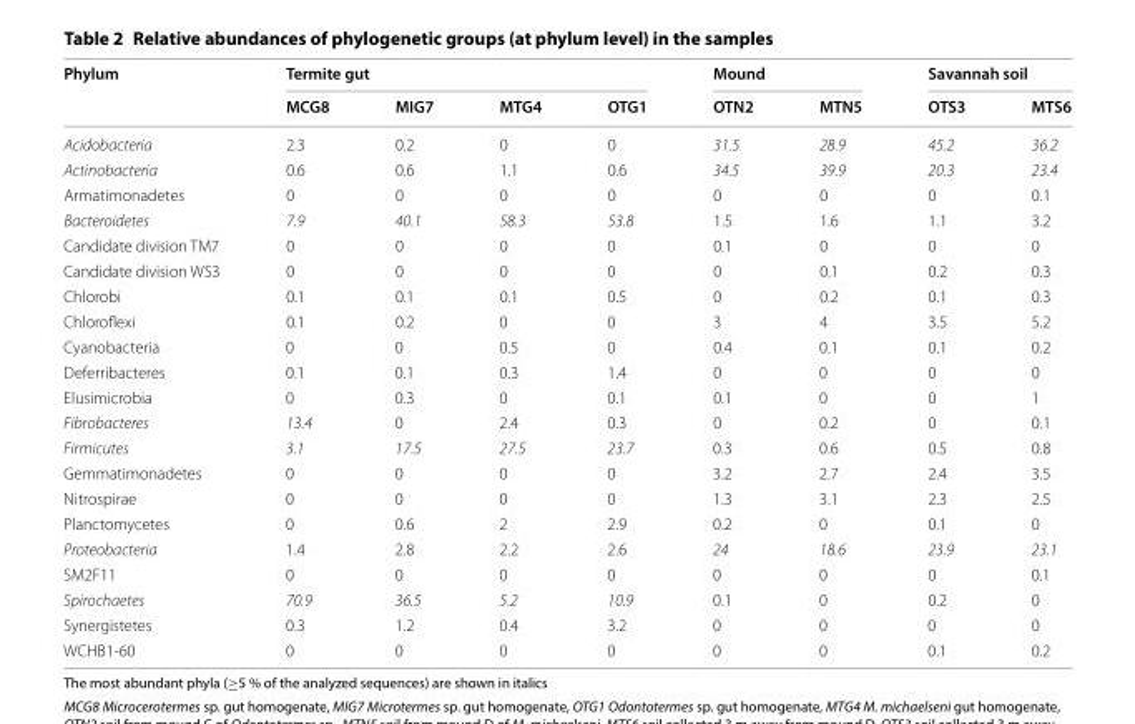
<table><thead><tr><td rowspan="2">Phylum</td><td colspan="4">Termite gut</td><td colspan="2">Mound</td><td colspan="2">Savannah soil</td></tr><tr><td>MCG8</td><td>MIG7</td><td>MTG4</td><td>OTG1</td><td>OTN2</td><td>MTN5</td><td>OTS3</td><td>MTS6</td></tr></thead><tbody><tr><td>Acidobacteria</td><td>2.3</td><td>0.2</td><td>0</td><td>0</td><td>31.5</td><td>28.9</td><td>45.2</td><td>36.2</td></tr><tr><td>Actinobacteria</td><td>0.6</td><td>0.6</td><td>1.1</td><td>0.6</td><td>34.5</td><td>39.9</td><td>20.3</td><td>23.4</td></tr><tr><td>Armatimonadetes</td><td>0</td><td>0</td><td>0</td><td>0</td><td>0</td><td>0</td><td>0</td><td>0.1</td></tr><tr><td>Bacteroidetes</td><td>7.9</td><td>40.1</td><td>58.3</td><td>53.8</td><td>1.5</td><td>1.6</td><td>1.1</td><td>3.2</td></tr><tr><td>Candidate division TM7</td><td>0</td><td>0</td><td>0</td><td>0</td><td>0.1</td><td>0</td><td>0</td><td>0</td></tr><tr><td>Candidate division WS3</td><td>0</td><td>0</td><td>0</td><td>0</td><td>0</td><td>0.1</td><td>0.2</td><td>0.3</td></tr><tr><td>Chlorobi</td><td>0.1</td><td>0.1</td><td>0.1</td><td>0.5</td><td>0</td><td>0.2</td><td>0.1</td><td>0.3</td></tr><tr><td>Chloroflexi</td><td>0.1</td><td>0.2</td><td>0</td><td>0</td><td>3</td><td>4</td><td>3.5</td><td>5.2</td></tr><tr><td>Cyanobacteria</td><td>0</td><td>0</td><td>0.5</td><td>0</td><td>0.4</td><td>0.1</td><td>0.1</td><td>0.2</td></tr><tr><td>Deferribacteres</td><td>0.1</td><td>0.1</td><td>0.3</td><td>1.4</td><td>0</td><td>0</td><td>0</td><td>0</td></tr><tr><td>Elusimicrobia</td><td>0</td><td>0.3</td><td>0</td><td>0.1</td><td>0.1</td><td>0</td><td>0</td><td>1</td></tr><tr><td>Fibrobacteres</td><td>13.4</td><td>0</td><td>2.4</td><td>0.3</td><td>0</td><td>0.2</td><td>0</td><td>0.1</td></tr><tr><td>Firmicutes</td><td>3.1</td><td>17.5</td><td>27.5</td><td>23.7</td><td>0.3</td><td>0.6</td><td>0.5</td><td>0.8</td></tr><tr><td>Gemmatimonadetes</td><td>0</td><td>0</td><td>0</td><td>0</td><td>3.2</td><td>2.7</td><td>2.4</td><td>3.5</td></tr><tr><td>Nitrospirae</td><td>0</td><td>0</td><td>0</td><td>0</td><td>1.3</td><td>3.1</td><td>2.3</td><td>2.5</td></tr><tr><td>Planctomycetes</td><td>0</td><td>0.6</td><td>2</td><td>2.9</td><td>0.2</td><td>0</td><td>0.1</td><td>0</td></tr><tr><td>Proteobacteria</td><td>1.4</td><td>2.8</td><td>2.2</td><td>2.6</td><td>24</td><td>18.6</td><td>23.9</td><td>23.1</td></tr><tr><td>SM2F11</td><td>0</td><td>0</td><td>0</td><td>0</td><td>0</td><td>0</td><td>0</td><td>0.1</td></tr><tr><td>Spirochaetes</td><td>70.9</td><td>36.5</td><td>5.2</td><td>10.9</td><td>0.1</td><td>0</td><td>0.2</td><td>0</td></tr><tr><td>Synergistetes</td><td>0.3</td><td>1.2</td><td>0.4</td><td>3.2</td><td>0</td><td>0</td><td>0</td><td>0</td></tr><tr><td>WCHB1‑60</td><td>0</td><td>0</td><td>0</td><td>0</td><td>0</td><td>0</td><td>0.1</td><td>0.2</td></tr></tbody></table>